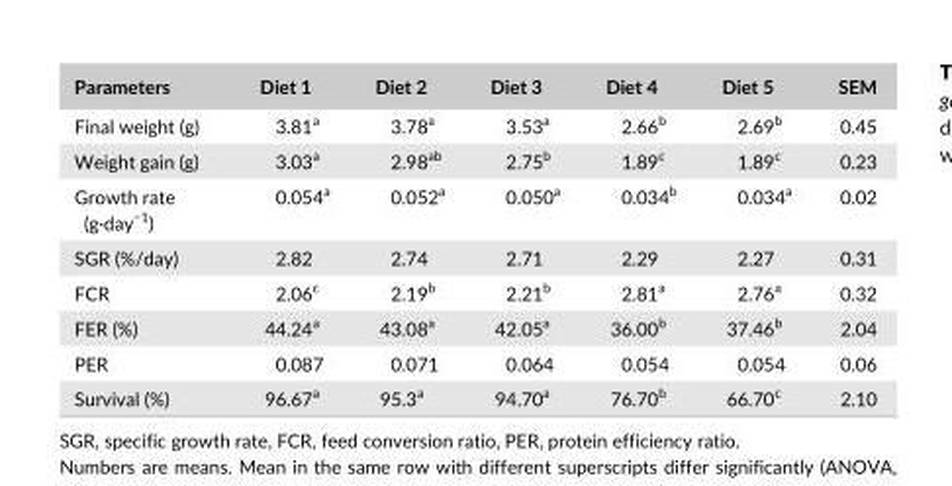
<table><thead><tr><td>Parameters</td><td>Diet 1</td><td>Diet 2</td><td>Diet 3</td><td>Diet 4</td><td>Diet 5</td><td>SEM</td></tr></thead><tbody><tr><td>Final weight (g)</td><td>3.81<sup>a</sup></td><td>3.78<sup>a</sup></td><td>3.53<sup>a</sup></td><td>2.66<sup>b</sup></td><td>2.69<sup>b</sup></td><td>0.45</td></tr><tr><td>Weight gain (g)</td><td>3.03<sup>a</sup></td><td>2.98<sup>ab</sup></td><td>2.75<sup>b</sup></td><td>1.89<sup>c</sup></td><td>1.89<sup>c</sup></td><td>0.23</td></tr><tr><td>Growth rate (g·day<sup>−1</sup>)</td><td>0.054<sup>a</sup></td><td>0.052<sup>a</sup></td><td>0.050<sup>a</sup></td><td>0.034<sup>b</sup></td><td>0.034<sup>a</sup></td><td>0.02</td></tr><tr><td>SGR (%/day)</td><td>2.82</td><td>2.74</td><td>2.71</td><td>2.29</td><td>2.27</td><td>0.31</td></tr><tr><td>FCR</td><td>2.06<sup>c</sup></td><td>2.19<sup>b</sup></td><td>2.21<sup>b</sup></td><td>2.81<sup>a</sup></td><td>2.76<sup>a</sup></td><td>0.32</td></tr><tr><td>FER (%)</td><td>44.24<sup>a</sup></td><td>43.08<sup>a</sup></td><td>42.05<sup>a</sup></td><td>36.00<sup>b</sup></td><td>37.46<sup>b</sup></td><td>2.04</td></tr><tr><td>PER</td><td>0.087</td><td>0.071</td><td>0.064</td><td>0.054</td><td>0.054</td><td>0.06</td></tr><tr><td>Survival (%)</td><td>96.67<sup>a</sup></td><td>95.3<sup>a</sup></td><td>94.70<sup>a</sup></td><td>76.70<sup>b</sup></td><td>66.70<sup>c</sup></td><td>2.10</td></tr></tbody></table>